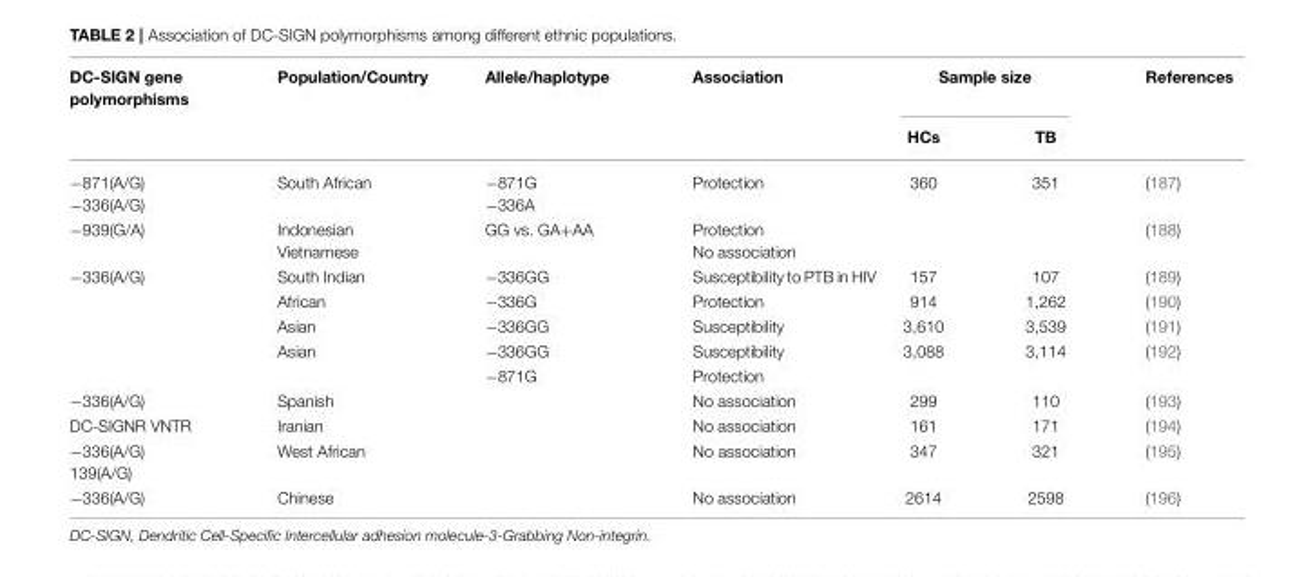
<table><thead><tr><td rowspan="2">DC-SIGN gene polymorphisms</td><td rowspan="2">Population/Country</td><td rowspan="2">Allele/haplotype</td><td rowspan="2">Association</td><td colspan="2">Sample size</td><td rowspan="2">References</td></tr><tr><td>HCs</td><td>TB</td></tr></thead><tbody><tr><td>−871(A/G) −336(A/G)</td><td>South African</td><td>−871G −336A</td><td>Protection</td><td>360</td><td>351</td><td>(187)</td></tr><tr><td>−939(G/A)</td><td>Indonesian Vietnamese</td><td>GG vs. GA+AA</td><td>Protection No association</td><td></td><td></td><td>(188)</td></tr><tr><td rowspan="5">−336(A/G)</td><td>South Indian</td><td>−336GG</td><td>Susceptibility to PTB in HIV</td><td>157</td><td>107</td><td>(189)</td></tr><tr><td>African</td><td>−336G</td><td>Protection</td><td>914</td><td>1,262</td><td>(190)</td></tr><tr><td>Asian</td><td>−336GG</td><td>Susceptibility</td><td>3,610</td><td>3,539</td><td>(191)</td></tr><tr><td>Asian</td><td>−336GG</td><td>Susceptibility</td><td>3,088</td><td>3,114</td><td>(192)</td></tr><tr><td></td><td>−871G</td><td>Protection</td><td></td><td></td><td></td></tr><tr><td>−336(A/G)</td><td>Spanish</td><td></td><td>No association</td><td>299</td><td>110</td><td>(193)</td></tr><tr><td>DC-SIGNR VNTR</td><td>Iranian</td><td></td><td>No association</td><td>161</td><td>171</td><td>(194)</td></tr><tr><td>−336(A/G) 139(A/G)</td><td>West African</td><td></td><td>No association</td><td>347</td><td>321</td><td>(195)</td></tr><tr><td>−336(A/G)</td><td>Chinese</td><td></td><td>No association</td><td>2614</td><td>2598</td><td>(196)</td></tr></tbody></table>